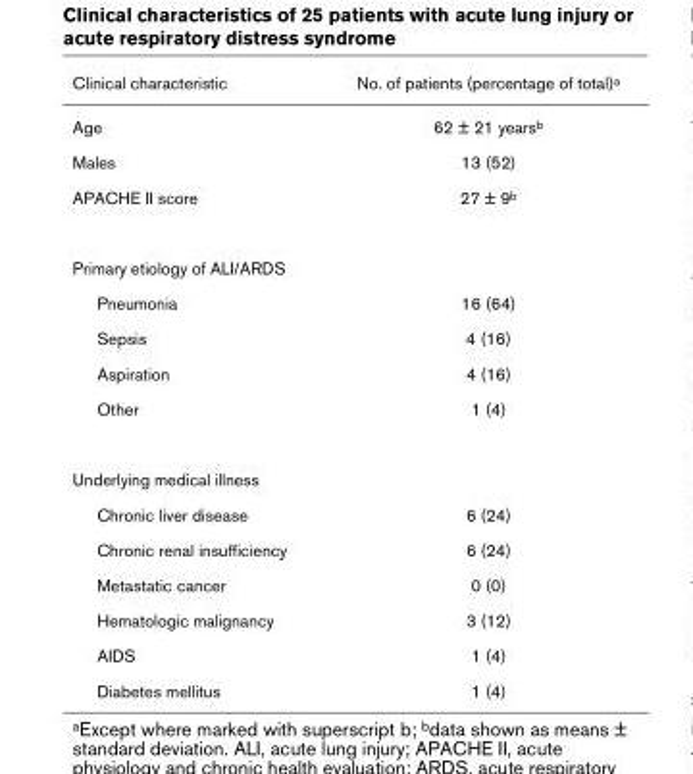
<table><thead><tr><td>Clinical characteristic</td><td>No. of patients (percentage of total)a</td></tr></thead><tbody><tr><td>Age</td><td>62 ± 21 yearsb</td></tr><tr><td>Males</td><td>13 (52)</td></tr><tr><td>APACHE II score</td><td>27 ± 9b</td></tr><tr><td colspan="2">Primary etiology of ALI/ARDS</td></tr><tr><td>Pneumonia</td><td>16 (64)</td></tr><tr><td>Sepsis</td><td>4 (16)</td></tr><tr><td>Aspiration</td><td>4 (16)</td></tr><tr><td>Other</td><td>1 (4)</td></tr><tr><td colspan="2">Underlying medical illness</td></tr><tr><td>Chronic liver disease</td><td>6 (24)</td></tr><tr><td>Chronic renal insufficiency</td><td>6 (24)</td></tr><tr><td>Metastatic cancer</td><td>0 (0)</td></tr><tr><td>Hematologic malignancy</td><td>3 (12)</td></tr><tr><td>AIDS</td><td>1 (4)</td></tr><tr><td>Diabetes mellitus</td><td>1 (4)</td></tr></tbody></table>